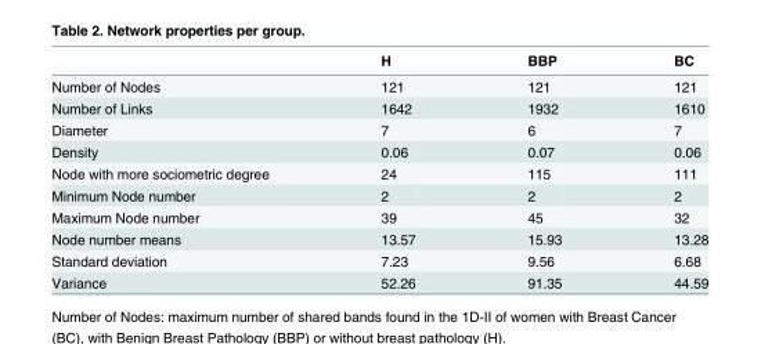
<table><thead><tr><td></td><td>H</td><td>BBP</td><td>BC</td></tr></thead><tbody><tr><td>Number of Nodes</td><td>121</td><td>121</td><td>121</td></tr><tr><td>Number of Links</td><td>1642</td><td>1932</td><td>1610</td></tr><tr><td>Diameter</td><td>7</td><td>6</td><td>7</td></tr><tr><td>Density</td><td>0.06</td><td>0.07</td><td>0.06</td></tr><tr><td>Node with more sociometric degree</td><td>24</td><td>115</td><td>111</td></tr><tr><td>Minimum Node number</td><td>2</td><td>2</td><td>2</td></tr><tr><td>Maximum Node number</td><td>39</td><td>45</td><td>32</td></tr><tr><td>Node number means</td><td>13.57</td><td>15.93</td><td>13.28</td></tr><tr><td>Standard deviation</td><td>7.23</td><td>9.56</td><td>6.68</td></tr><tr><td>Variance</td><td>52.26</td><td>91.35</td><td>44.59</td></tr></tbody></table>